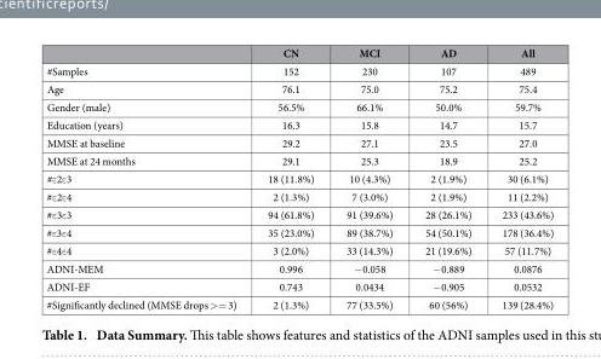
<table><thead><tr><td></td><td>CN</td><td>MCI</td><td>AD</td><td>All</td></tr></thead><tbody><tr><td>#Samples</td><td>152</td><td>230</td><td>107</td><td>489</td></tr><tr><td>Age</td><td>76.1</td><td>75.0</td><td>75.2</td><td>75.4</td></tr><tr><td>Gender (male)</td><td>56.5%</td><td>66.1%</td><td>50.0%</td><td>59.7%</td></tr><tr><td>Education (years)</td><td>16.3</td><td>15.8</td><td>14.7</td><td>15.7</td></tr><tr><td>MMSE at baseline</td><td>29.2</td><td>27.1</td><td>23.5</td><td>27.0</td></tr><tr><td>MMSE at 24 months</td><td>29.1</td><td>25.3</td><td>18.9</td><td>25.2</td></tr><tr><td>#ε 2ε 3</td><td>18 (11.8%)</td><td>10 (4.3%)</td><td>2 (1.9%)</td><td>30 (6.1%)</td></tr><tr><td>#ε 2ε 4</td><td>2 (1.3%)</td><td>7 (3.0%)</td><td>2 (1.9%)</td><td>11 (2.2%)</td></tr><tr><td>#ε 3ε 3</td><td>94 (61.8%)</td><td>91 (39.6%)</td><td>28 (26.1%)</td><td>233 (43.6%)</td></tr><tr><td>#ε 3ε 4</td><td>35 (23.0%)</td><td>89 (38.7%)</td><td>54 (50.1%)</td><td>178 (36.4%)</td></tr><tr><td>#ε 4ε 4</td><td>3 (2.0%)</td><td>33 (14.3%)</td><td>21 (19.6%)</td><td>57 (11.7%)</td></tr><tr><td>ADNI-MEM</td><td>0.996</td><td>− 0.058</td><td>− 0.889</td><td>0.0876</td></tr><tr><td>ADNI-EF</td><td>0.743</td><td>0.0434</td><td>− 0.905</td><td>0.0532</td></tr><tr><td>#Significantly declined (MMSE drops &gt; = 3)</td><td>2 (1.3%)</td><td>77 (33.5%)</td><td>60 (56%)</td><td>139 (28.4%)</td></tr></tbody></table>